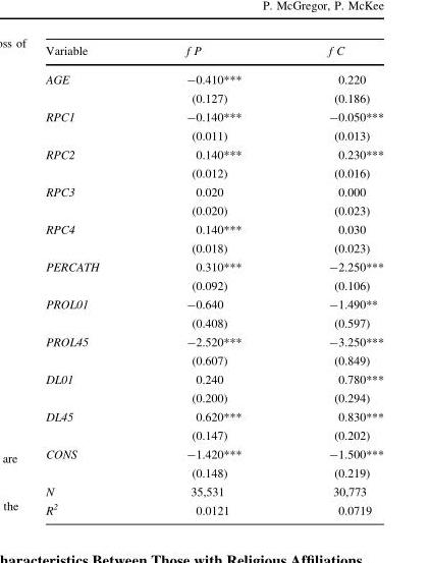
<table><thead><tr><td>Variable</td><td>f P</td><td>f C</td></tr></thead><tbody><tr><td rowspan="2">AGE</td><td>-0.410***</td><td>0.220</td></tr><tr><td>(0.127)</td><td>(0.186)</td></tr><tr><td rowspan="2">RPC1</td><td>-0.140***</td><td>-0.050***</td></tr><tr><td>(0.011)</td><td>(0.013)</td></tr><tr><td rowspan="2">RPC2</td><td>0.140***</td><td>0.230***</td></tr><tr><td>(0.012)</td><td>(0.016)</td></tr><tr><td rowspan="2">RPC3</td><td>0.020</td><td>0.000</td></tr><tr><td>(0.020)</td><td>(0.023)</td></tr><tr><td rowspan="2">RPC4</td><td>0.140***</td><td>0.030</td></tr><tr><td>(0.018)</td><td>(0.023)</td></tr><tr><td rowspan="2">PERCATH</td><td>0.310***</td><td>-2.250***</td></tr><tr><td>(0.092)</td><td>(0.106)</td></tr><tr><td rowspan="2">PROL01</td><td>-0.640</td><td>-1.490**</td></tr><tr><td>(0.408)</td><td>(0.597)</td></tr><tr><td rowspan="2">PROL45</td><td>-2.520***</td><td>-3.250***</td></tr><tr><td>(0.607)</td><td>(0.849)</td></tr><tr><td rowspan="2">DL01</td><td>0.240</td><td>0.780***</td></tr><tr><td>(0.200)</td><td>(0.294)</td></tr><tr><td rowspan="2">DL45</td><td>0.620***</td><td>0.830***</td></tr><tr><td>(0.147)</td><td>(0.202)</td></tr><tr><td rowspan="2">CONS</td><td>-1.420***</td><td>-1.500***</td></tr><tr><td>(0.148)</td><td>(0.219)</td></tr><tr><td>N</td><td>35,531</td><td>30,773</td></tr><tr><td>R<sup>2</sup></td><td>0.0121</td><td>0.0719</td></tr></tbody></table>